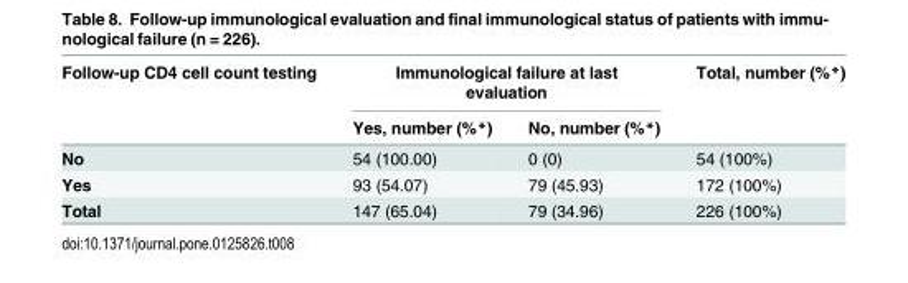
<table><thead><tr><td rowspan="2">Follow-up CD4 cell count testing</td><td colspan="2">Immunological failure at last evaluation</td><td rowspan="2">Total, number (%*)</td></tr><tr><td>Yes, number (%*)</td><td>No, number (%*)</td></tr></thead><tbody><tr><td>No</td><td>54 (100.00)</td><td>0 (0)</td><td>54 (100%)</td></tr><tr><td>Yes</td><td>93 (54.07)</td><td>79 (45.93)</td><td>172 (100%)</td></tr><tr><td>Total</td><td>147 (65.04)</td><td>79 (34.96)</td><td>226 (100%)</td></tr></tbody></table>